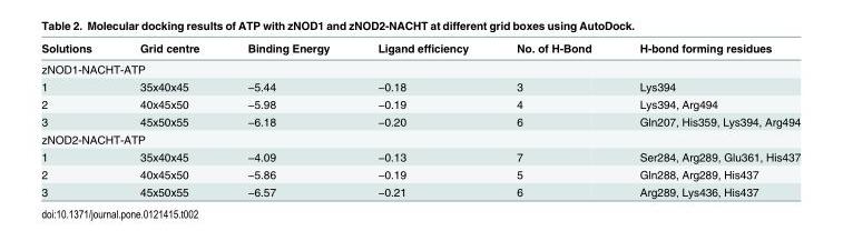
<table><thead><tr><td>Solutions</td><td>Grid centre</td><td>Binding Energy</td><td>Ligand efficiency</td><td>No. of H-Bond</td><td>H-bond forming residues</td></tr></thead><tbody><tr><td colspan="6">zNOD1-NACHT-ATP</td></tr><tr><td>1</td><td>35x40x45</td><td>−5.44</td><td>−0.18</td><td>3</td><td>Lys394</td></tr><tr><td>2</td><td>40x45x50</td><td>−5.98</td><td>−0.19</td><td>4</td><td>Lys394, Arg494</td></tr><tr><td>3</td><td>45x50x55</td><td>−6.18</td><td>−0.20</td><td>6</td><td>Gln207, His359, Lys394, Arg494</td></tr><tr><td colspan="6">zNOD2-NACHT-ATP</td></tr><tr><td>1</td><td>35x40x45</td><td>−4.09</td><td>−0.13</td><td>7</td><td>Ser284, Arg289, Glu361, His437</td></tr><tr><td>2</td><td>40x45x50</td><td>−5.86</td><td>−0.19</td><td>5</td><td>Gln288, Arg289, His437</td></tr><tr><td>3</td><td>45x50x55</td><td>−6.57</td><td>−0.21</td><td>6</td><td>Arg289, Lys436, His437</td></tr></tbody></table>